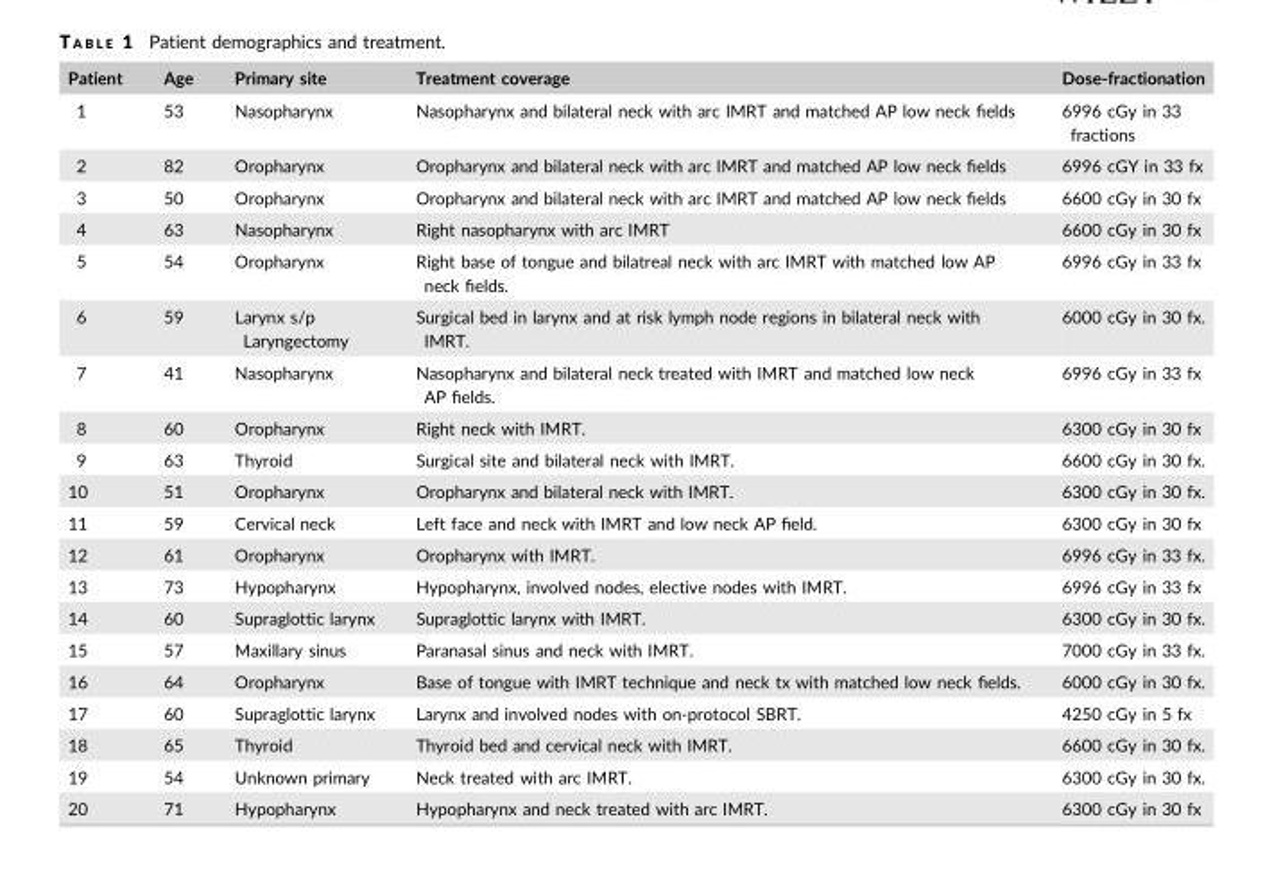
<table><thead><tr><td>Patient</td><td>Age</td><td>Primary site</td><td>Treatment coverage</td><td>Dose-fractionation</td></tr></thead><tbody><tr><td>1</td><td>53</td><td>Nasopharynx</td><td>Nasopharynx and bilateral neck with arc IMRT and matched AP low neck fields</td><td>6996 cGy in 33 fractions</td></tr><tr><td>2</td><td>82</td><td>Oropharynx</td><td>Oropharynx and bilateral neck with arc IMRT and matched AP low neck fields</td><td>6996 cGY in 33 fx</td></tr><tr><td>3</td><td>50</td><td>Oropharynx</td><td>Oropharynx and bilateral neck with arc IMRT and matched AP low neck fields</td><td>6600 cGy in 30 fx</td></tr><tr><td>4</td><td>63</td><td>Nasopharynx</td><td>Right nasopharynx with arc IMRT</td><td>6600 cGy in 30 fx</td></tr><tr><td>5</td><td>54</td><td>Oropharynx</td><td>Right base of tongue and bilatreal neck with arc IMRT with matched low AP neck fields.</td><td>6996 cGy in 33 fx</td></tr><tr><td>6</td><td>59</td><td>Larynx s/p Laryngectomy</td><td>Surgical bed in larynx and at risk lymph node regions in bilateral neck with IMRT.</td><td>6000 cGy in 30 fx.</td></tr><tr><td>7</td><td>41</td><td>Nasopharynx</td><td>Nasopharynx and bilateral neck treated with IMRT and matched low neck AP fields.</td><td>6996 cGy in 33 fx</td></tr><tr><td>8</td><td>60</td><td>Oropharynx</td><td>Right neck with IMRT.</td><td>6300 cGy in 30 fx</td></tr><tr><td>9</td><td>63</td><td>Thyroid</td><td>Surgical site and bilateral neck with IMRT.</td><td>6600 cGy in 30 fx.</td></tr><tr><td>10</td><td>51</td><td>Oropharynx</td><td>Oropharynx and bilateral neck with IMRT.</td><td>6300 cGy in 30 fx.</td></tr><tr><td>11</td><td>59</td><td>Cervical neck</td><td>Left face and neck with IMRT and low neck AP field.</td><td>6300 cGy in 30 fx</td></tr><tr><td>12</td><td>61</td><td>Oropharynx</td><td>Oropharynx with IMRT.</td><td>6996 cGy in 33 fx.</td></tr><tr><td>13</td><td>73</td><td>Hypopharynx</td><td>Hypopharynx, involved nodes, elective nodes with IMRT.</td><td>6996 cGy in 33 fx</td></tr><tr><td>14</td><td>60</td><td>Supraglottic larynx</td><td>Supraglottic larynx with IMRT.</td><td>6300 cGy in 30 fx.</td></tr><tr><td>15</td><td>57</td><td>Maxillary sinus</td><td>Paranasal sinus and neck with IMRT.</td><td>7000 cGy in 33 fx.</td></tr><tr><td>16</td><td>64</td><td>Oropharynx</td><td>Base of tongue with IMRT technique and neck tx with matched low neck fields.</td><td>6000 cGy in 30 fx.</td></tr><tr><td>17</td><td>60</td><td>Supraglottic larynx</td><td>Larynx and involved nodes with on-protocol SBRT.</td><td>4250 cGy in 5 fx</td></tr><tr><td>18</td><td>65</td><td>Thyroid</td><td>Thyroid bed and cervical neck with IMRT.</td><td>6600 cGy in 30 fx.</td></tr><tr><td>19</td><td>54</td><td>Unknown primary</td><td>Neck treated with arc IMRT.</td><td>6300 cGy in 30 fx.</td></tr><tr><td>20</td><td>71</td><td>Hypopharynx</td><td>Hypopharynx and neck treated with arc IMRT.</td><td>6300 cGy in 30 fx</td></tr></tbody></table>